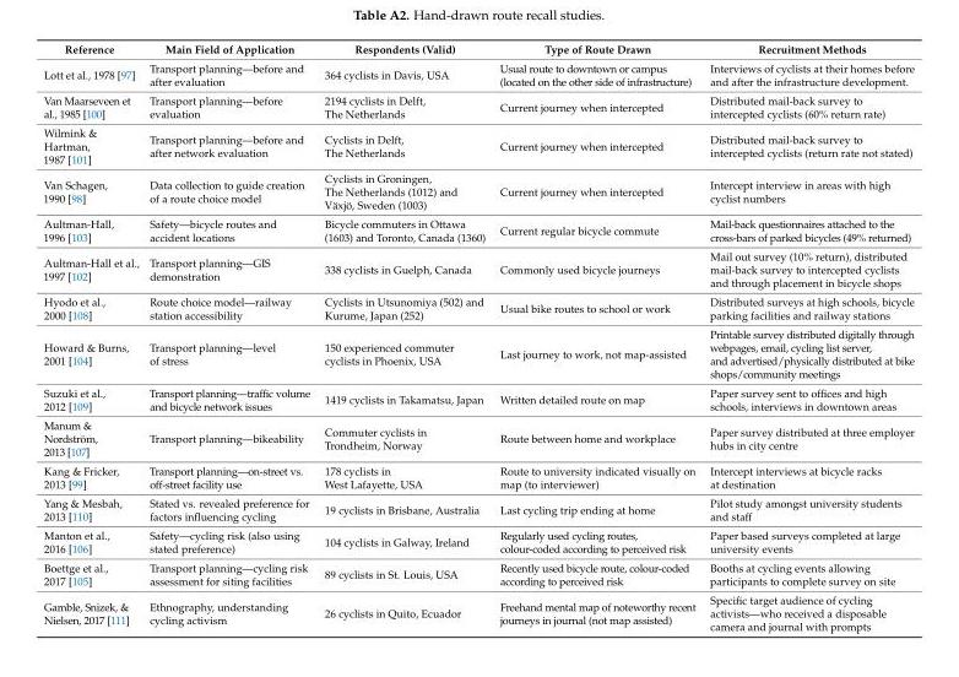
<table><thead><tr><td>Reference</td><td>Main Field of Application</td><td>Respondents (Valid)</td><td>Type of Route Drawn</td><td>Recruitment Methods</td></tr></thead><tbody><tr><td>Lott et al., 1978 [97]</td><td>Transport planning—before and after evaluation</td><td>364 cyclists in Davis, USA</td><td>Usual route to downtown or campus (located on the other side of infrastructure)</td><td>Interviews of cyclists at their homes before and after the infrastructure development.</td></tr><tr><td>Van Maarseveen et al., 1985 [100]</td><td>Transport planning—before evaluation</td><td>2194 cyclists in Delft, The Netherlands</td><td>Current journey when intercepted</td><td>Distributed mail-back survey to intercepted cyclists (60% return rate)</td></tr><tr><td>Wilmink &amp; Hartman, 1987 [101]</td><td>Transport planning—before and after network evaluation</td><td>Cyclists in Delft, The Netherlands</td><td>Current journey when intercepted</td><td>Distributed mail-back survey to intercepted cyclists (return rate not stated)</td></tr><tr><td>Van Schagen, 1990 [98]</td><td>Data collection to guide creation of a route choice model</td><td>Cyclists in Groningen, The Netherlands (1012) and Växjö, Sweden (1003)</td><td>Current journey when intercepted</td><td>Intercept interview in areas with high cyclist numbers</td></tr><tr><td>Aultman-Hall, 1996 [103]</td><td>Safety—bicycle routes and accident locations</td><td>Bicycle commuters in Ottawa (1603) and Toronto, Canada (1360)</td><td>Current regular bicycle commute</td><td>Mail-back questionnaires attached to the cross-bars of parked bicycles (49% returned)</td></tr><tr><td>Aultman-Hall et al., 1997 [102]</td><td>Transport planning—GIS demonstration</td><td>338 cyclists in Guelph, Canada</td><td>Commonly used bicycle journeys</td><td>Mail out survey (10% return), distributed mail-back survey to intercepted cyclists and through placement in bicycle shops</td></tr><tr><td>Hyodo et al., 2000 [108]</td><td>Route choice model—railway station accessibility</td><td>Cyclists in Utsunomiya (502) and Kurume, Japan (252)</td><td>Usual bike routes to school or work</td><td>Distributed surveys at high schools, bicycle parking facilities and railway stations</td></tr><tr><td>Howard &amp; Burns, 2001 [104]</td><td>Transport planning—level of stress</td><td>150 experienced commuter cyclists in Phoenix, USA</td><td>Last journey to work, not map-assisted</td><td>Printable survey distributed digitally through webpages, email, cycling list server, and advertised/physically distributed at bike shops/community meetings</td></tr><tr><td>Suzuki et al., 2012 [109]</td><td>Transport planning—traffic volume and bicycle network issues</td><td>1419 cyclists in Takamatsu, Japan</td><td>Written detailed route on map</td><td>Paper survey sent to offices and high schools, interviews in downtown areas</td></tr><tr><td>Manum &amp; Nordström, 2013 [107]</td><td>Transport planning—bikeability</td><td>Commuter cyclists in Trondheim, Norway</td><td>Route between home and workplace</td><td>Paper survey distributed at three employer hubs in city centre</td></tr><tr><td>Kang &amp; Fricker, 2013 [99]</td><td>Transport planning—on-street vs. off-street facility use</td><td>178 cyclists in West Lafayette, USA</td><td>Route to university indicated visually on map (to interviewer)</td><td>Intercept interviews at bicycle racks at destination</td></tr><tr><td>Yang &amp; Mesbah, 2013 [110]</td><td>Stated vs. revealed preference for factors influencing cycling</td><td>19 cyclists in Brisbane, Australia</td><td>Last cycling trip ending at home</td><td>Pilot study amongst university students and staff</td></tr><tr><td>Manton et al., 2016 [106]</td><td>Safety—cycling risk (also using stated preference)</td><td>104 cyclists in Galway, Ireland</td><td>Regularly used cycling routes, colour-coded according to perceived risk</td><td>Paper based surveys completed at large university events</td></tr><tr><td>Boettge et al., 2017 [105]</td><td>Transport planning—cycling risk assessment for siting facilities</td><td>89 cyclists in St. Louis, USA</td><td>Recently used bicycle route, colour-coded according to perceived risk</td><td>Booths at cycling events allowing participants to complete survey on site</td></tr><tr><td>Gamble, Snizek, &amp; Nielsen, 2017 [111]</td><td>Ethnography, understanding cycling activism</td><td>26 cyclists in Quito, Ecuador</td><td>Freehand mental map of noteworthy recent journeys in journal (not map assisted)</td><td>Specific target audience of cycling activists—who received a disposable camera and journal with prompts</td></tr></tbody></table>